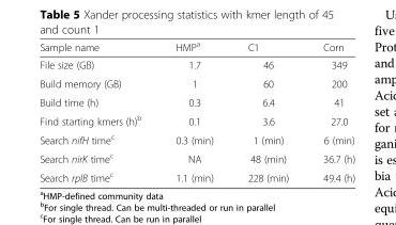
<table><thead><tr><td>Sample name</td><td>HMP<sup>a</sup></td><td>C1</td><td>Corn</td></tr></thead><tbody><tr><td>File size (GB)</td><td>1.7</td><td>46</td><td>349</td></tr><tr><td>Build memory (GB)</td><td>1</td><td>60</td><td>200</td></tr><tr><td>Build time (h)</td><td>0.3</td><td>6.4</td><td>41</td></tr><tr><td>Find starting kmers (h)<sup>b</sup></td><td>0.1</td><td>3.6</td><td>27.0</td></tr><tr><td>Search nifH time<sup>c</sup></td><td>0.3 (min)</td><td>1 (min)</td><td>6 (min)</td></tr><tr><td>Search nirK time<sup>c</sup></td><td>NA</td><td>48 (min)</td><td>36.7 (h)</td></tr><tr><td>Search rplB time<sup>c</sup></td><td>1.1 (min)</td><td>228 (min)</td><td>49.4 (h)</td></tr></tbody></table>